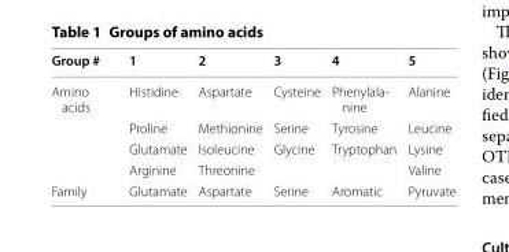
<table><thead><tr><td>Group #</td><td>1</td><td>2</td><td>3</td><td>4</td><td>5</td></tr></thead><tbody><tr><td rowspan="4">Amino acids</td><td>Histidine</td><td>Aspartate</td><td>Cysteine</td><td>Phenylala- nine</td><td>Alanine</td></tr><tr><td>Proline</td><td>Methionine</td><td>Serine</td><td>Tyrosine</td><td>Leucine</td></tr><tr><td>Glutamate</td><td>Isoleucine</td><td>Glycine</td><td>Tryptophan</td><td>Lysine</td></tr><tr><td>Arginine</td><td>Threonine</td><td></td><td></td><td>Valine</td></tr><tr><td>Family</td><td>Glutamate</td><td>Aspartate</td><td>Serine</td><td>Aromatic</td><td>Pyruvate</td></tr></tbody></table>